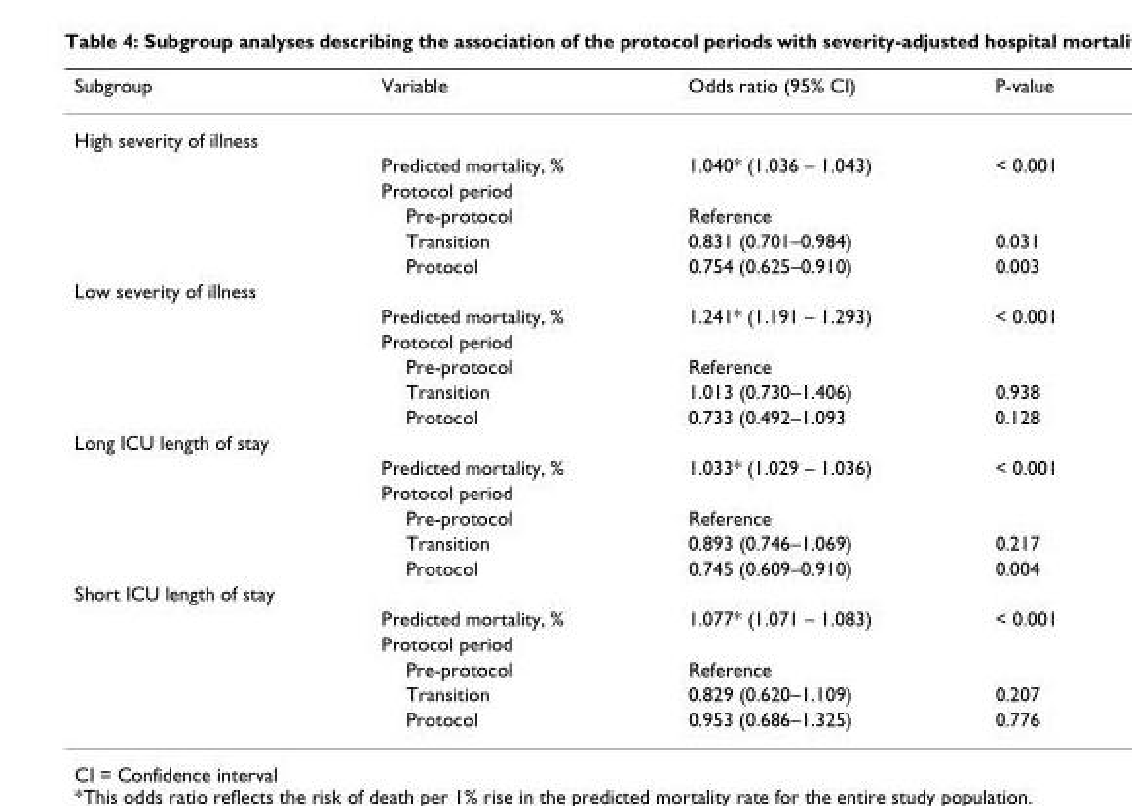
<table><thead><tr><td>Subgroup</td><td>Variable</td><td>Odds ratio (95% CI)</td><td>P-value</td></tr></thead><tbody><tr><td colspan="4">High severity of illness</td></tr><tr><td></td><td>Predicted mortality, %</td><td>1.040* (1.036 – 1.043)</td><td>&lt; 0.001</td></tr><tr><td></td><td>Protocol period</td><td></td><td></td></tr><tr><td></td><td>Pre-protocol</td><td>Reference</td><td></td></tr><tr><td></td><td>Transition</td><td>0.831 (0.701–0.984)</td><td>0.031</td></tr><tr><td></td><td>Protocol</td><td>0.754 (0.625–0.910)</td><td>0.003</td></tr><tr><td colspan="4">Low severity of illness</td></tr><tr><td></td><td>Predicted mortality, %</td><td>1.241* (1.191 – 1.293)</td><td>&lt; 0.001</td></tr><tr><td></td><td>Protocol period</td><td></td><td></td></tr><tr><td></td><td>Pre-protocol</td><td>Reference</td><td></td></tr><tr><td></td><td>Transition</td><td>1.013 (0.730–1.406)</td><td>0.938</td></tr><tr><td></td><td>Protocol</td><td>0.733 (0.492–1.093</td><td>0.128</td></tr><tr><td colspan="4">Long ICU length of stay</td></tr><tr><td></td><td>Predicted mortality, %</td><td>1.033* (1.029 – 1.036)</td><td>&lt; 0.001</td></tr><tr><td></td><td>Protocol period</td><td></td><td></td></tr><tr><td></td><td>Pre-protocol</td><td>Reference</td><td></td></tr><tr><td></td><td>Transition</td><td>0.893 (0.746–1.069)</td><td>0.217</td></tr><tr><td></td><td>Protocol</td><td>0.745 (0.609–0.910)</td><td>0.004</td></tr><tr><td colspan="4">Short ICU length of stay</td></tr><tr><td></td><td>Predicted mortality, %</td><td>1.077* (1.071 – 1.083)</td><td>&lt; 0.001</td></tr><tr><td></td><td>Protocol period</td><td></td><td></td></tr><tr><td></td><td>Pre-protocol</td><td>Reference</td><td></td></tr><tr><td></td><td>Transition</td><td>0.829 (0.620–1.109)</td><td>0.207</td></tr><tr><td></td><td>Protocol</td><td>0.953 (0.686–1.325)</td><td>0.776</td></tr></tbody></table>